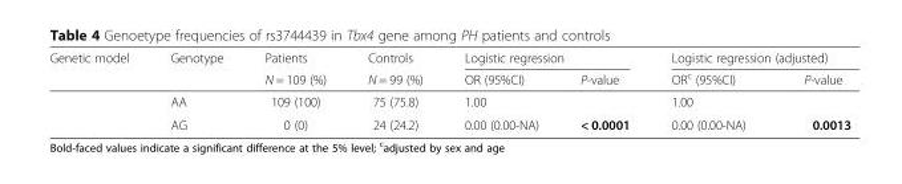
<table><thead><tr><td rowspan="2">Genetic model</td><td rowspan="2">Genotype</td><td rowspan="2">Patients N = 109 (%)</td><td rowspan="2">Controls N = 99 (%)</td><td colspan="2">Logistic regression</td><td colspan="2">Logistic regression (adjusted)</td></tr><tr><td>OR (95%CI)</td><td>P-value</td><td>OR<sup>c</sup> (95%CI)</td><td>P-value</td></tr></thead><tbody><tr><td rowspan="2"></td><td>AA</td><td>109 (100)</td><td>75 (75.8)</td><td>1.00</td><td></td><td>1.00</td><td></td></tr><tr><td>AG</td><td>0 (0)</td><td>24 (24.2)</td><td>0.00 (0.00-NA)</td><td>&lt; 0.0001</td><td>0.00 (0.00-NA)</td><td>0.0013</td></tr></tbody></table>